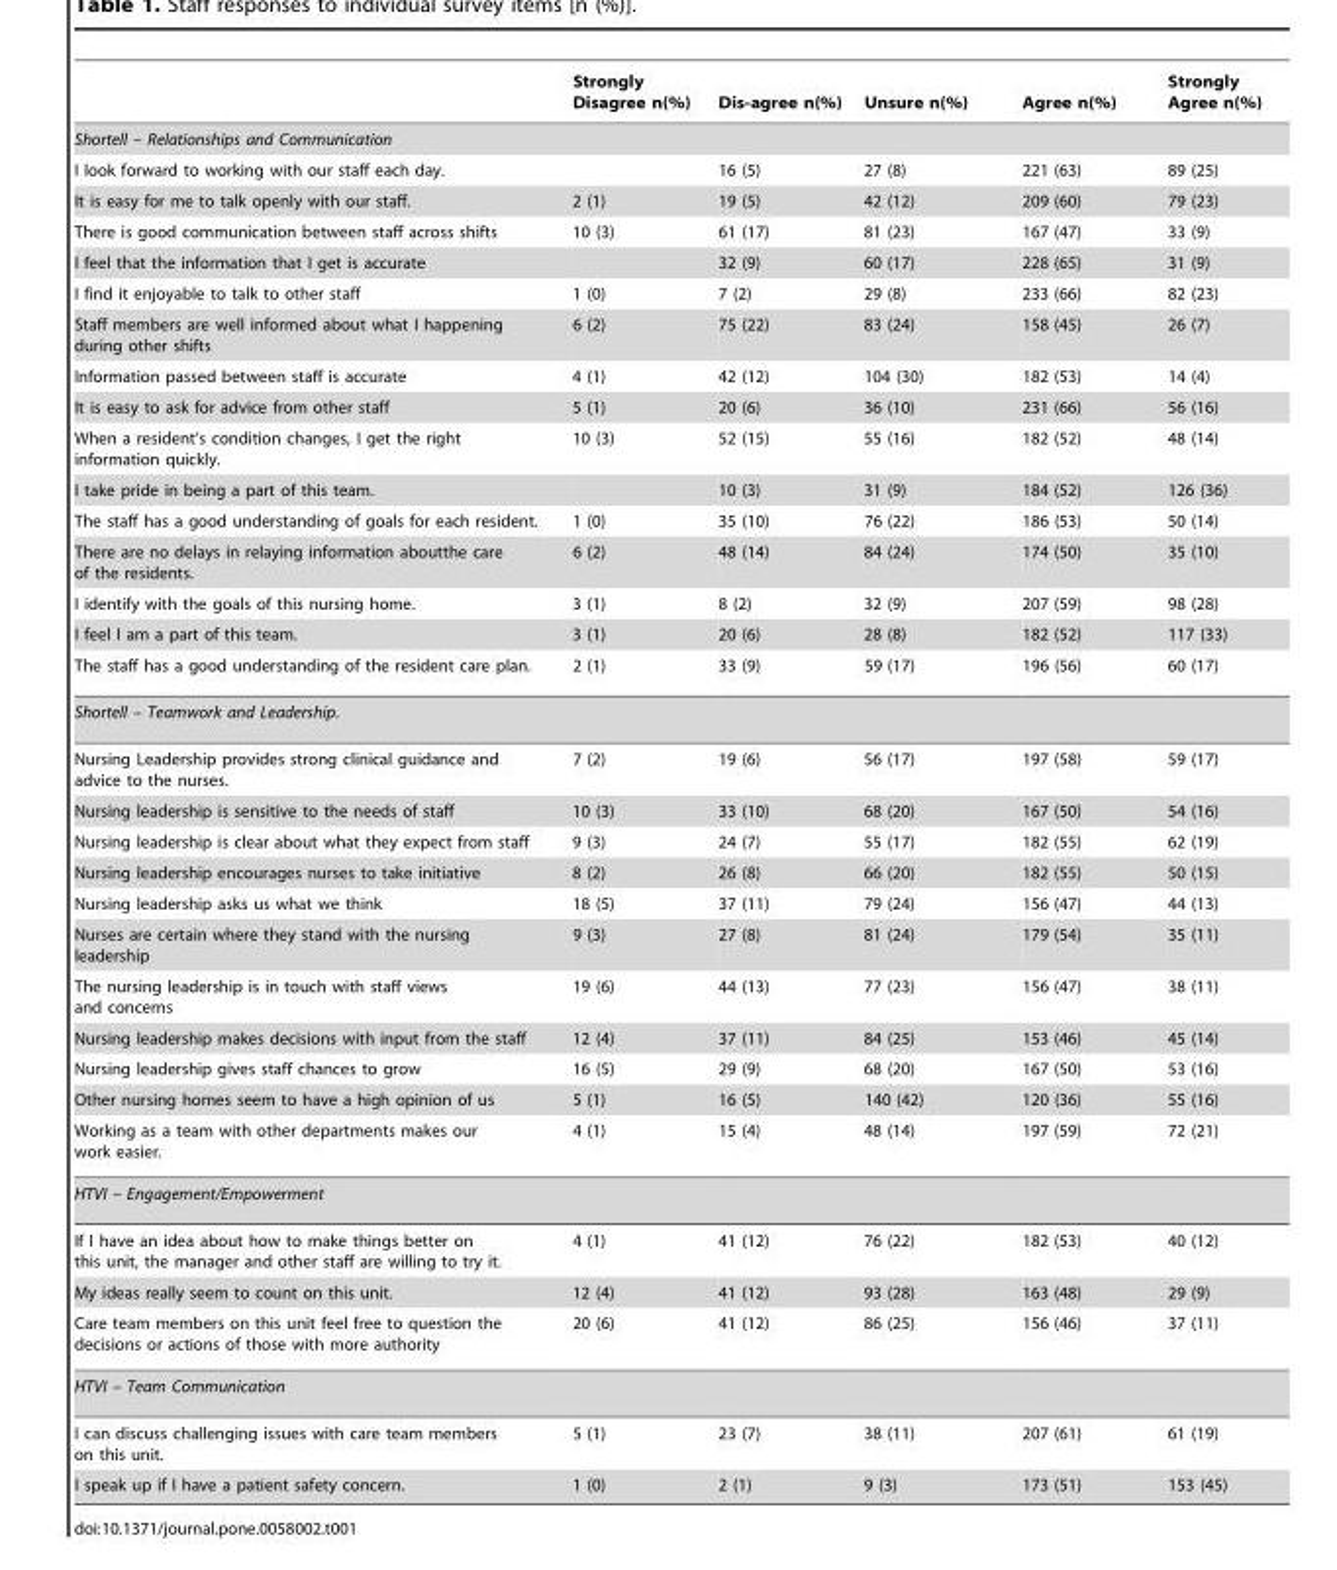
<table><thead><tr><td></td><td>Strongly Disagree n(%)</td><td>Dis-agree n(%)</td><td>Unsure n(%)</td><td>Agree n(%)</td><td>Strongly Agree n(%)</td></tr></thead><tbody><tr><td colspan="6">Shortell – Relationships and Communication</td></tr><tr><td>I look forward to working with our staff each day.</td><td></td><td>16 (5)</td><td>27 (8)</td><td>221 (63)</td><td>89 (25)</td></tr><tr><td>It is easy for me to talk openly with our staff.</td><td>2 (1)</td><td>19 (5)</td><td>42 (12)</td><td>209 (60)</td><td>79 (23)</td></tr><tr><td>There is good communication between staff across shifts</td><td>10 (3)</td><td>61 (17)</td><td>81 (23)</td><td>167 (47)</td><td>33 (9)</td></tr><tr><td>I feel that the information that I get is accurate</td><td></td><td>32 (9)</td><td>60 (17)</td><td>228 (65)</td><td>31 (9)</td></tr><tr><td>I find it enjoyable to talk to other staff</td><td>1 (0)</td><td>7 (2)</td><td>29 (8)</td><td>233 (66)</td><td>82 (23)</td></tr><tr><td>Staff members are well informed about what I happening during other shifts</td><td>6 (2)</td><td>75 (22)</td><td>83 (24)</td><td>158 (45)</td><td>26 (7)</td></tr><tr><td>Information passed between staff is accurate</td><td>4 (1)</td><td>42 (12)</td><td>104 (30)</td><td>182 (53)</td><td>14 (4)</td></tr><tr><td>It is easy to ask for advice from other staff</td><td>5 (1)</td><td>20 (6)</td><td>36 (10)</td><td>231 (66)</td><td>56 (16)</td></tr><tr><td>When a resident’s condition changes, I get the right information quickly.</td><td>10 (3)</td><td>52 (15)</td><td>55 (16)</td><td>182 (52)</td><td>48 (14)</td></tr><tr><td>I take pride in being a part of this team.</td><td></td><td>10 (3)</td><td>31 (9)</td><td>184 (52)</td><td>126 (36)</td></tr><tr><td>The staff has a good understanding of goals for each resident.</td><td>1 (0)</td><td>35 (10)</td><td>76 (22)</td><td>186 (53)</td><td>50 (14)</td></tr><tr><td>There are no delays in relaying information aboutthe care of the residents.</td><td>6 (2)</td><td>48 (14)</td><td>84 (24)</td><td>174 (50)</td><td>35 (10)</td></tr><tr><td>I identify with the goals of this nursing home.</td><td>3 (1)</td><td>8 (2)</td><td>32 (9)</td><td>207 (59)</td><td>98 (28)</td></tr><tr><td>I feel I am a part of this team.</td><td>3 (1)</td><td>20 (6)</td><td>28 (8)</td><td>182 (52)</td><td>117 (33)</td></tr><tr><td>The staff has a good understanding of the resident care plan.</td><td>2 (1)</td><td>33 (9)</td><td>59 (17)</td><td>196 (56)</td><td>60 (17)</td></tr><tr><td colspan="6">Shortell – Teamwork and Leadership.</td></tr><tr><td>Nursing Leadership provides strong clinical guidance and advice to the nurses.</td><td>7 (2)</td><td>19 (6)</td><td>56 (17)</td><td>197 (58)</td><td>59 (17)</td></tr><tr><td>Nursing leadership is sensitive to the needs of staff</td><td>10 (3)</td><td>33 (10)</td><td>68 (20)</td><td>167 (50)</td><td>54 (16)</td></tr><tr><td>Nursing leadership is clear about what they expect from staff</td><td>9 (3)</td><td>24 (7)</td><td>55 (17)</td><td>182 (55)</td><td>62 (19)</td></tr><tr><td>Nursing leadership encourages nurses to take initiative</td><td>8 (2)</td><td>26 (8)</td><td>66 (20)</td><td>182 (55)</td><td>50 (15)</td></tr><tr><td>Nursing leadership asks us what we think</td><td>18 (5)</td><td>37 (11)</td><td>79 (24)</td><td>156 (47)</td><td>44 (13)</td></tr><tr><td>Nurses are certain where they stand with the nursing leadership</td><td>9 (3)</td><td>27 (8)</td><td>81 (24)</td><td>179 (54)</td><td>35 (11)</td></tr><tr><td>The nursing leadership is in touch with staff views and concerns</td><td>19 (6)</td><td>44 (13)</td><td>77 (23)</td><td>156 (47)</td><td>38 (11)</td></tr><tr><td>Nursing leadership makes decisions with input from the staff</td><td>12 (4)</td><td>37 (11)</td><td>84 (25)</td><td>153 (46)</td><td>45 (14)</td></tr><tr><td>Nursing leadership gives staff chances to grow</td><td>16 (5)</td><td>29 (9)</td><td>68 (20)</td><td>167 (50)</td><td>53 (16)</td></tr><tr><td>Other nursing homes seem to have a high opinion of us</td><td>5 (1)</td><td>16 (5)</td><td>140 (42)</td><td>120 (36)</td><td>55 (16)</td></tr><tr><td>Working as a team with other departments makes our work easier.</td><td>4 (1)</td><td>15 (4)</td><td>48 (14)</td><td>197 (59)</td><td>72 (21)</td></tr><tr><td colspan="6">HTVI – Engagement/Empowerment</td></tr><tr><td>If I have an idea about how to make things better on this unit, the manager and other staff are willing to try it.</td><td>4 (1)</td><td>41 (12)</td><td>76 (22)</td><td>182 (53)</td><td>40 (12)</td></tr><tr><td>My ideas really seem to count on this unit.</td><td>12 (4)</td><td>41 (12)</td><td>93 (28)</td><td>163 (48)</td><td>29 (9)</td></tr><tr><td>Care team members on this unit feel free to question the decisions or actions of those with more authority</td><td>20 (6)</td><td>41 (12)</td><td>86 (25)</td><td>156 (46)</td><td>37 (11)</td></tr><tr><td colspan="6">HTVI – Team Communication</td></tr><tr><td>I can discuss challenging issues with care team members on this unit.</td><td>5 (1)</td><td>23 (7)</td><td>38 (11)</td><td>207 (61)</td><td>61 (19)</td></tr><tr><td>I speak up if I have a patient safety concern.</td><td>1 (0)</td><td>2 (1)</td><td>9 (3)</td><td>173 (51)</td><td>153 (45)</td></tr></tbody></table>